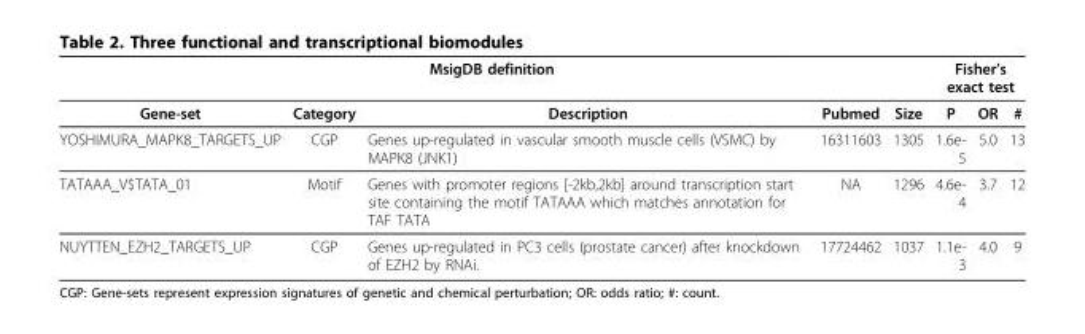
<table><thead><tr><td colspan="5">MsigDB definition</td><td colspan="3">Fisher’s exact test</td></tr><tr><td>Gene-set</td><td>Category</td><td>Description</td><td>Pubmed</td><td>Size</td><td>P</td><td>OR</td><td>#</td></tr></thead><tbody><tr><td>YOSHIMURA_MAPK8_TARGETS_UP</td><td>CGP</td><td>Genes up-regulated in vascular smooth muscle cells (VSMC) by MAPK8 (JNK1)</td><td>16311603</td><td>1305</td><td>1.6e- 5</td><td>5.0</td><td>13</td></tr><tr><td>TATAAA_V$TATA_01</td><td>Motif</td><td>Genes with promoter regions [-2kb,2kb] around transcription start site containing the motif TATAAA which matches annotation for TAF TATA</td><td>NA</td><td>1296</td><td>4.6e- 4</td><td>3.7</td><td>12</td></tr><tr><td>NUYTTEN_EZH2_TARGETS_UP</td><td>CGP</td><td>Genes up-regulated in PC3 cells (prostate cancer) after knockdown of EZH2 by RNAi.</td><td>17724462</td><td>1037</td><td>1.1e- 3</td><td>4.0</td><td>9</td></tr></tbody></table>